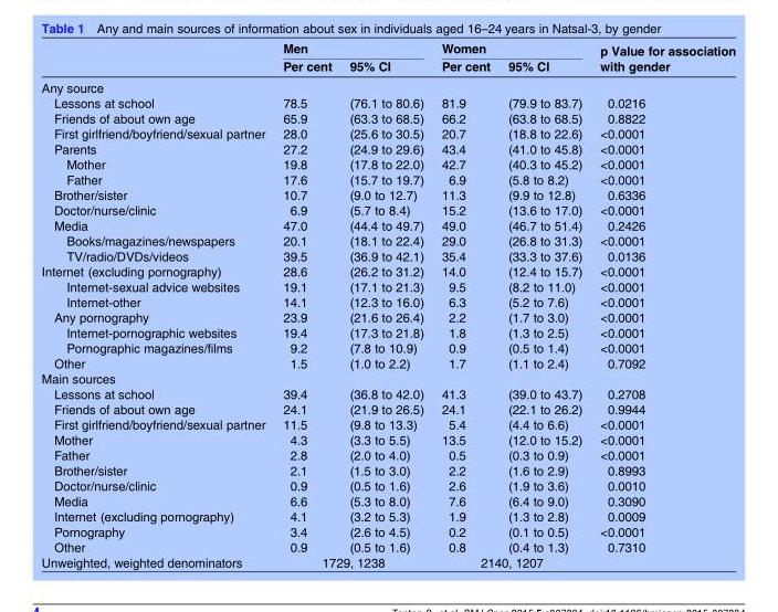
<table><thead><tr><td rowspan="2"></td><td colspan="2">Men</td><td colspan="2">Women</td><td rowspan="2">p Value for association with gender</td></tr><tr><td>Per cent</td><td>95% CI</td><td>Per cent</td><td>95% CI</td></tr></thead><tbody><tr><td colspan="6">Any source</td></tr><tr><td>Lessons at school</td><td>78.5</td><td>(76.1 to 80.6)</td><td>81.9</td><td>(79.9 to 83.7)</td><td>0.0216</td></tr><tr><td>Friends of about own age</td><td>65.9</td><td>(63.3 to 68.5)</td><td>66.2</td><td>(63.8 to 68.5)</td><td>0.8822</td></tr><tr><td>First girlfriend/boyfriend/sexual partner</td><td>28.0</td><td>(25.6 to 30.5)</td><td>20.7</td><td>(18.8 to 22.6)</td><td>&lt;0.0001</td></tr><tr><td>Parents</td><td>27.2</td><td>(24.9 to 29.6)</td><td>43.4</td><td>(41.0 to 45.8)</td><td>&lt;0.0001</td></tr><tr><td>Mother</td><td>19.8</td><td>(17.8 to 22.0)</td><td>42.7</td><td>(40.3 to 45.2)</td><td>&lt;0.0001</td></tr><tr><td>Father</td><td>17.6</td><td>(15.7 to 19.7)</td><td>6.9</td><td>(5.8 to 8.2)</td><td>&lt;0.0001</td></tr><tr><td>Brother/sister</td><td>10.7</td><td>(9.0 to 12.7)</td><td>11.3</td><td>(9.9 to 12.8)</td><td>0.6336</td></tr><tr><td>Doctor/nurse/clinic</td><td>6.9</td><td>(5.7 to 8.4)</td><td>15.2</td><td>(13.6 to 17.0)</td><td>&lt;0.0001</td></tr><tr><td>Media</td><td>47.0</td><td>(44.4 to 49.7)</td><td>49.0</td><td>(46.7 to 51.4)</td><td>0.2426</td></tr><tr><td>Books/magazines/newspapers</td><td>20.1</td><td>(18.1 to 22.4)</td><td>29.0</td><td>(26.8 to 31.3)</td><td>&lt;0.0001</td></tr><tr><td>TV/radio/DVDs/videos</td><td>39.5</td><td>(36.9 to 42.1)</td><td>35.4</td><td>(33.3 to 37.6)</td><td>0.0136</td></tr><tr><td>Internet (excluding pornography)</td><td>28.6</td><td>(26.2 to 31.2)</td><td>14.0</td><td>(12.4 to 15.7)</td><td>&lt;0.0001</td></tr><tr><td>Internet-sexual advice websites</td><td>19.1</td><td>(17.1 to 21.3)</td><td>9.5</td><td>(8.2 to 11.0)</td><td>&lt;0.0001</td></tr><tr><td>Internet-other</td><td>14.1</td><td>(12.3 to 16.0)</td><td>6.3</td><td>(5.2 to 7.6)</td><td>&lt;0.0001</td></tr><tr><td>Any pornography</td><td>23.9</td><td>(21.6 to 26.4)</td><td>2.2</td><td>(1.7 to 3.0)</td><td>&lt;0.0001</td></tr><tr><td>Internet-pornographic websites</td><td>19.4</td><td>(17.3 to 21.8)</td><td>1.8</td><td>(1.3 to 2.5)</td><td>&lt;0.0001</td></tr><tr><td>Pornographic magazines/films</td><td>9.2</td><td>(7.8 to 10.9)</td><td>0.9</td><td>(0.5 to 1.4)</td><td>&lt;0.0001</td></tr><tr><td>Other</td><td>1.5</td><td>(1.0 to 2.2)</td><td>1.7</td><td>(1.1 to 2.4)</td><td>0.7092</td></tr><tr><td colspan="6">Main sources</td></tr><tr><td>Lessons at school</td><td>39.4</td><td>(36.8 to 42.0)</td><td>41.3</td><td>(39.0 to 43.7)</td><td>0.2708</td></tr><tr><td>Friends of about own age</td><td>24.1</td><td>(21.9 to 26.5)</td><td>24.1</td><td>(22.1 to 26.2)</td><td>0.9944</td></tr><tr><td>First girlfriend/boyfriend/sexual partner</td><td>11.5</td><td>(9.8 to 13.3)</td><td>5.4</td><td>(4.4 to 6.6)</td><td>&lt;0.0001</td></tr><tr><td>Mother</td><td>4.3</td><td>(3.3 to 5.5)</td><td>13.5</td><td>(12.0 to 15.2)</td><td>&lt;0.0001</td></tr><tr><td>Father</td><td>2.8</td><td>(2.0 to 4.0)</td><td>0.5</td><td>(0.3 to 0.9)</td><td>&lt;0.0001</td></tr><tr><td>Brother/sister</td><td>2.1</td><td>(1.5 to 3.0)</td><td>2.2</td><td>(1.6 to 2.9)</td><td>0.8993</td></tr><tr><td>Doctor/nurse/clinic</td><td>0.9</td><td>(0.5 to 1.6)</td><td>2.6</td><td>(1.9 to 3.6)</td><td>0.0010</td></tr><tr><td>Media</td><td>6.6</td><td>(5.3 to 8.0)</td><td>7.6</td><td>(6.4 to 9.0)</td><td>0.3090</td></tr><tr><td>Internet (excluding pornography)</td><td>4.1</td><td>(3.2 to 5.3)</td><td>1.9</td><td>(1.3 to 2.8)</td><td>0.0009</td></tr><tr><td>Pornography</td><td>3.4</td><td>(2.6 to 4.5)</td><td>0.2</td><td>(0.1 to 0.5)</td><td>&lt;0.0001</td></tr><tr><td>Other</td><td>0.9</td><td>(0.5 to 1.6)</td><td>0.8</td><td>(0.4 to 1.3)</td><td>0.7310</td></tr><tr><td>Unweighted, weighted denominators</td><td colspan="2">1729, 1238</td><td colspan="2">2140, 1207</td><td></td></tr></tbody></table>